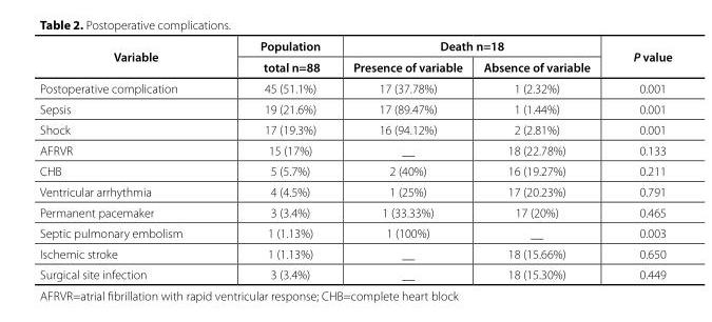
<table><thead><tr><td rowspan="2">Variable</td><td rowspan="2">Population total n=88</td><td colspan="2">Death n=18</td><td rowspan="2">P value</td></tr><tr><td>Presence of variable</td><td>Absence of variable</td></tr></thead><tbody><tr><td>Postoperative complication</td><td>45 (51.1%)</td><td>17 (37.78%)</td><td>1 (2.32%)</td><td>0.001</td></tr><tr><td>Sepsis</td><td>19 (21.6%)</td><td>17 (89.47%)</td><td>1 (1.44%)</td><td>0.001</td></tr><tr><td>Shock</td><td>17 (19.3%)</td><td>16 (94.12%)</td><td>2 (2.81%)</td><td>0.001</td></tr><tr><td>AFRVR</td><td>15 (17%)</td><td>__</td><td>18 (22.78%)</td><td>0.133</td></tr><tr><td>CHB</td><td>5 (5.7%)</td><td>2 (40%)</td><td>16 (19.27%)</td><td>0.211</td></tr><tr><td>Ventricular arrhythmia</td><td>4 (4.5%)</td><td>1 (25%)</td><td>17 (20.23%)</td><td>0.791</td></tr><tr><td>Permanent pacemaker</td><td>3 (3.4%)</td><td>1 (33.33%)</td><td>17 (20%)</td><td>0.465</td></tr><tr><td>Septic pulmonary embolism</td><td>1 (1.13%)</td><td>1 (100%)</td><td>__</td><td>0.003</td></tr><tr><td>Ischemic stroke</td><td>1 (1.13%)</td><td>__</td><td>18 (15.66%)</td><td>0.650</td></tr><tr><td>Surgical site infection</td><td>3 (3.4%)</td><td>__</td><td>18 (15.30%)</td><td>0.449</td></tr></tbody></table>